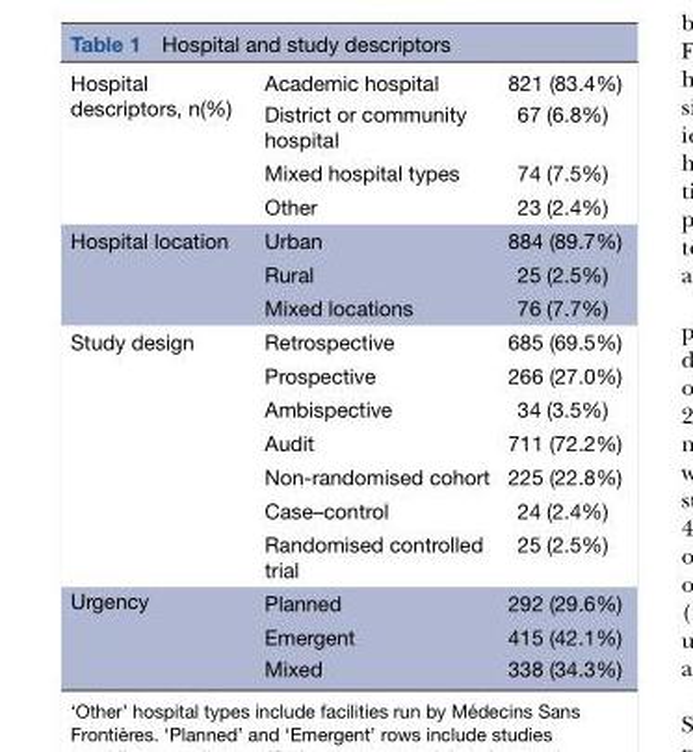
<table><tbody><tr><td rowspan="4">Hospital descriptors, n(%)</td><td>Academic hospital</td><td>821 (83.4%)</td></tr><tr><td>District or community hospital</td><td>67 (6.8%)</td></tr><tr><td>Mixed hospital types</td><td>74 (7.5%)</td></tr><tr><td>Other</td><td>23 (2.4%)</td></tr><tr><td rowspan="3">Hospital location</td><td>Urban</td><td>884 (89.7%)</td></tr><tr><td>Rural</td><td>25 (2.5%)</td></tr><tr><td>Mixed locations</td><td>76 (7.7%)</td></tr><tr><td rowspan="7">Study design</td><td>Retrospective</td><td>685 (69.5%)</td></tr><tr><td>Prospective</td><td>266 (27.0%)</td></tr><tr><td>Ambispective</td><td>34 (3.5%)</td></tr><tr><td>Audit</td><td>711 (72.2%)</td></tr><tr><td>Non-randomised cohort</td><td>225 (22.8%)</td></tr><tr><td>Case–control</td><td>24 (2.4%)</td></tr><tr><td>Randomised controlled trial</td><td>25 (2.5%)</td></tr><tr><td rowspan="3">Urgency</td><td>Planned</td><td>292 (29.6%)</td></tr><tr><td>Emergent</td><td>415 (42.1%)</td></tr><tr><td>Mixed</td><td>338 (34.3%)</td></tr></tbody></table>